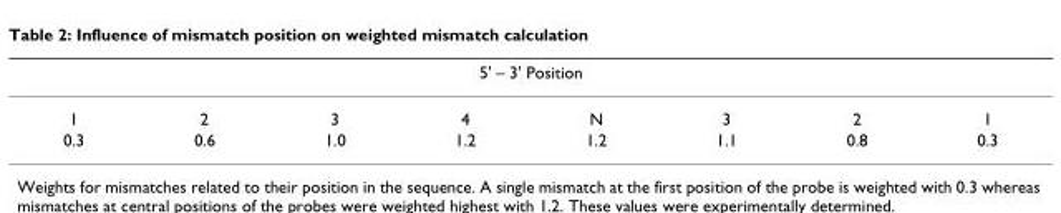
<table><thead><tr><td colspan="8">5&#x27; – 3&#x27; Position</td></tr><tr><td>1</td><td>2</td><td>3</td><td>4</td><td>N</td><td>3</td><td>2</td><td>1</td></tr></thead><tbody><tr><td>0.3</td><td>0.6</td><td>1.0</td><td>1.2</td><td>1.2</td><td>1.1</td><td>0.8</td><td>0.3</td></tr></tbody></table>